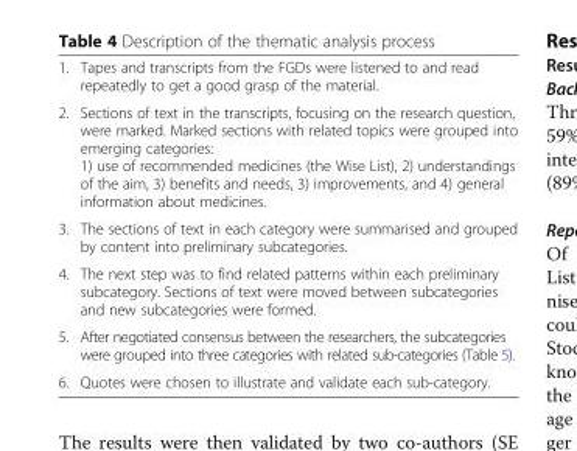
<table><tbody><tr><td>1.</td><td>Tapes and transcripts from the FGDs were listened to and read repeatedly to get a good grasp of the material.</td></tr><tr><td>2.</td><td>Sections of text in the transcripts, focusing on the research question, were marked. Marked sections with related topics were grouped into emerging categories: 1) use of recommended medicines (the Wise List), 2) understandings of the aim, 3) benefits and needs, 3) improvements, and 4) general information about medicines.</td></tr><tr><td>3.</td><td>The sections of text in each category were summarised and grouped by content into preliminary subcategories.</td></tr><tr><td>4.</td><td>The next step was to find related patterns within each preliminary subcategory. Sections of text were moved between subcategories and new subcategories were formed.</td></tr><tr><td>5.</td><td>After negotiated consensus between the researchers, the subcategories were grouped into three categories with related sub-categories (Table 5).</td></tr><tr><td>6.</td><td>Quotes were chosen to illustrate and validate each sub-category.</td></tr></tbody></table>